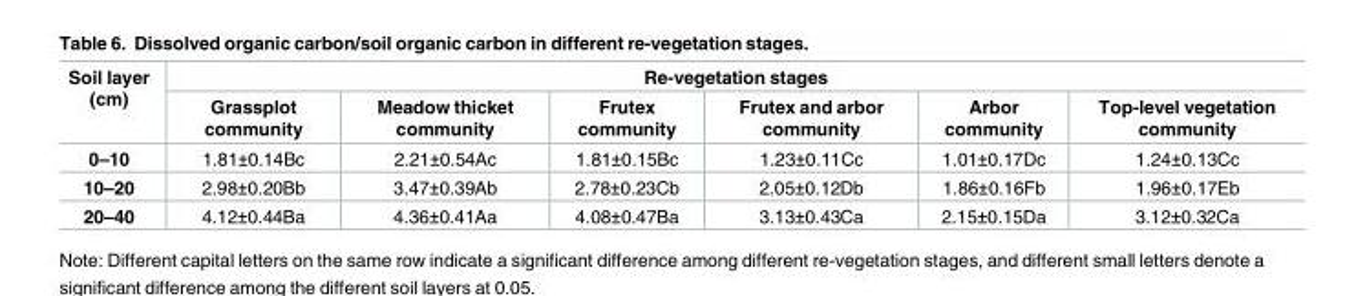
<table><thead><tr><td rowspan="2">Soil layer (cm)</td><td colspan="6">Re-vegetation stages</td></tr><tr><td>Grassplot community</td><td>Meadow thicket community</td><td>Frutex community</td><td>Frutex and arbor community</td><td>Arbor community</td><td>Top-level vegetation community</td></tr></thead><tbody><tr><td>0–10</td><td>1.81±0.14Bc</td><td>2.21±0.54Ac</td><td>1.81±0.15Bc</td><td>1.23±0.11Cc</td><td>1.01±0.17Dc</td><td>1.24±0.13Cc</td></tr><tr><td>10–20</td><td>2.98±0.20Bb</td><td>3.47±0.39Ab</td><td>2.78±0.23Cb</td><td>2.05±0.12Db</td><td>1.86±0.16Fb</td><td>1.96±0.17Eb</td></tr><tr><td>20–40</td><td>4.12±0.44Ba</td><td>4.36±0.41Aa</td><td>4.08±0.47Ba</td><td>3.13±0.43Ca</td><td>2.15±0.15Da</td><td>3.12±0.32Ca</td></tr></tbody></table>